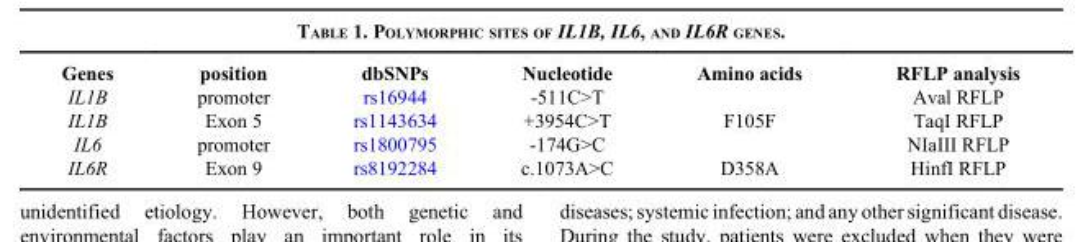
<table><thead><tr><td>Genes</td><td>position</td><td>dbSNPs</td><td>Nucleotide</td><td>Amino acids</td><td>RFLP analysis</td></tr></thead><tbody><tr><td>IL1B</td><td>promoter</td><td>rs16944</td><td>-511C&gt;T</td><td></td><td>Aval RFLP</td></tr><tr><td>IL1B</td><td>Exon 5</td><td>rs1143634</td><td>+3954C&gt;T</td><td>F105F</td><td>TaqI RFLP</td></tr><tr><td>IL6</td><td>promoter</td><td>rs1800795</td><td>-174G&gt;C</td><td></td><td>NIaIII RFLP</td></tr><tr><td>IL6R</td><td>Exon 9</td><td>rs8192284</td><td>c.1073A&gt;C</td><td>D358A</td><td>HinfI RFLP</td></tr></tbody></table>